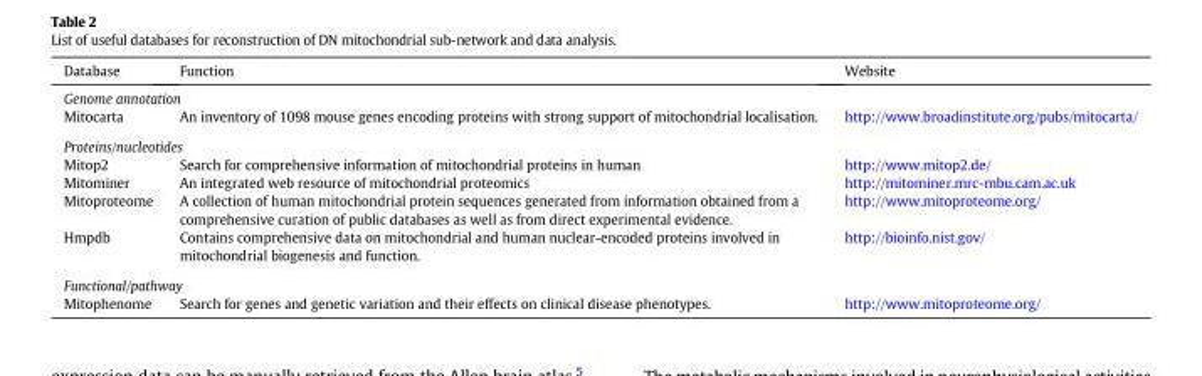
<table><thead><tr><td>Database</td><td>Function</td><td>Website</td></tr></thead><tbody><tr><td colspan="3">Genome annotation</td></tr><tr><td>Mitocarta</td><td>An inventory of 1098 mouse genes encoding proteins with strong support of mitochondrial localisation.</td><td>http://www.broadinstitute.org/pubs/mitocarta/</td></tr><tr><td colspan="3">Proteins/nucleotides</td></tr><tr><td>Mitop2</td><td>Search for comprehensive information of mitochondrial proteins in human</td><td>http://www.mitop2.de/</td></tr><tr><td>Mitominer</td><td>An integrated web resource of mitochondrial proteomics</td><td>http://mitominer.mrc-mbu.cam.ac.uk</td></tr><tr><td>Mitoproteome</td><td>A collection of human mitochondrial protein sequences generated from information obtained from a comprehensive curation of public databases as well as from direct experimental evidence.</td><td>http://www.mitoproteome.org/</td></tr><tr><td>Hmpdb</td><td>Contains comprehensive data on mitochondrial and human nuclear-encoded proteins involved in mitochondrial biogenesis and function.</td><td>http://bioinfo.nist.gov/</td></tr><tr><td colspan="3">Functional/pathway</td></tr><tr><td>Mitophenome</td><td>Search for genes and genetic variation and their effects on clinical disease phenotypes.</td><td>http://www.mitoproteome.org/</td></tr></tbody></table>